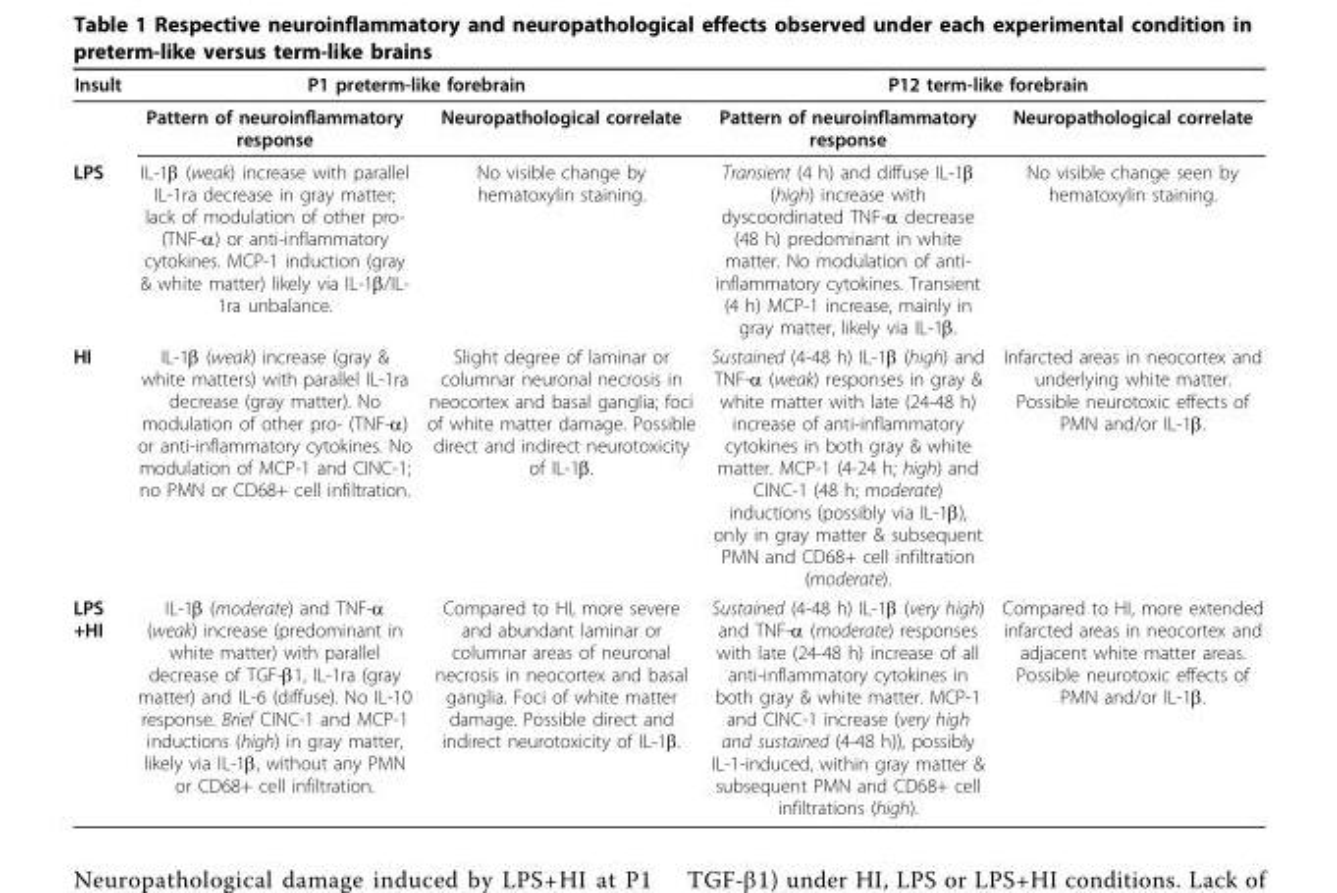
<table><thead><tr><td rowspan="2">Insult</td><td colspan="2">P1 preterm-like forebrain</td><td colspan="2">P12 term-like forebrain</td></tr><tr><td>Pattern of neuroinflammatory response</td><td>Neuropathological correlate</td><td>Pattern of neuroinflammatory response</td><td>Neuropathological correlate</td></tr></thead><tbody><tr><td>LPS</td><td>IL-1β (weak) increase with parallel IL-1ra decrease in gray matter; lack of modulation of other pro- (TNF-α) or anti-inflammatory cytokines. MCP-1 induction (gray &amp; white matter) likely via IL-1β/IL- 1ra unbalance.</td><td>No visible change by hematoxylin staining.</td><td>Transient (4 h) and diffuse IL-1β (high) increase with dyscoordinated TNF-α decrease (48 h) predominant in white matter. No modulation of anti- inflammatory cytokines. Transient (4 h) MCP-1 increase, mainly in gray matter, likely via IL-1β.</td><td>No visible change seen by hematoxylin staining.</td></tr><tr><td>HI</td><td>IL-1β (weak) increase (gray &amp; white matters) with parallel IL-1ra decrease (gray matter). No modulation of other pro- (TNF-α) or anti-inflammatory cytokines. No modulation of MCP-1 and CINC-1; no PMN or CD68+ cell infiltration.</td><td>Slight degree of laminar or columnar neuronal necrosis in neocortex and basal ganglia; foci of white matter damage. Possible direct and indirect neurotoxicity of IL-1β.</td><td>Sustained (4-48 h) IL-1β (high) and TNF-α (weak) responses in gray &amp; white matter with late (24-48 h) increase of anti-inflammatory cytokines in both gray &amp; white matter. MCP-1 (4-24 h; high) and CINC-1 (48 h; moderate) inductions (possibly via IL-1β), only in gray matter &amp; subsequent PMN and CD68+ cell infiltration (moderate).</td><td>Infarcted areas in neocortex and underlying white matter. Possible neurotoxic effects of PMN and/or IL-1β.</td></tr><tr><td>LPS +HI</td><td>IL-1β (moderate) and TNF-α (weak) increase (predominant in white matter) with parallel decrease of TGF-β1, IL-1ra (gray matter) and IL-6 (diffuse). No IL-10 response. Brief CINC-1 and MCP-1 inductions (high) in gray matter, likely via IL-1β, without any PMN or CD68+ cell infiltration.</td><td>Compared to HI, more severe and abundant laminar or columnar areas of neuronal necrosis in neocortex and basal ganglia. Foci of white matter damage. Possible direct and indirect neurotoxicity of IL-1β.</td><td>Sustained (4-48 h) IL-1β (very high) and TNF-α (moderate) responses with late (24-48 h) increase of all anti-inflammatory cytokines in both gray &amp; white matter. MCP-1 and CINC-1 increase (very high and sustained (4-48 h)), possibly IL-1-induced, within gray matter &amp; subsequent PMN and CD68+ cell infiltrations (high).</td><td>Compared to HI, more extended infarcted areas in neocortex and adjacent white matter areas. Possible neurotoxic effects of PMN and/or IL-1β.</td></tr></tbody></table>